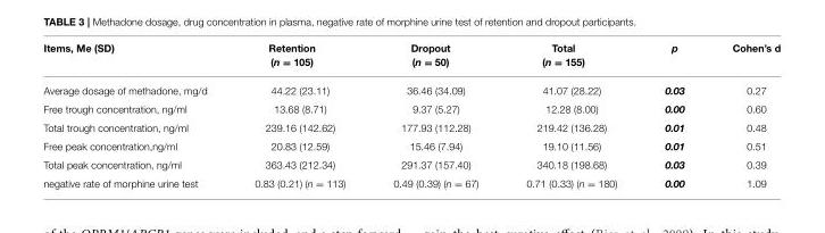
<table><thead><tr><td>Items, Me (SD)</td><td>Retention (n = 105)</td><td>Dropout (n = 50)</td><td>Total (n = 155)</td><td>p</td><td>Cohen’s d</td></tr></thead><tbody><tr><td>Average dosage of methadone, mg/d</td><td>44.22 (23.11)</td><td>36.46 (34.09)</td><td>41.07 (28.22)</td><td>0.03</td><td>0.27</td></tr><tr><td>Free trough concentration, ng/ml</td><td>13.68 (8.71)</td><td>9.37 (5.27)</td><td>12.28 (8.00)</td><td>0.00</td><td>0.60</td></tr><tr><td>Total trough concentration, ng/ml</td><td>239.16 (142.62)</td><td>177.93 (112.28)</td><td>219.42 (136.28)</td><td>0.01</td><td>0.48</td></tr><tr><td>Free peak concentration,ng/ml</td><td>20.83 (12.59)</td><td>15.46 (7.94)</td><td>19.10 (11.56)</td><td>0.01</td><td>0.51</td></tr><tr><td>Total peak concentration, ng/ml</td><td>363.43 (212.34)</td><td>291.37 (157.40)</td><td>340.18 (198.68)</td><td>0.03</td><td>0.39</td></tr><tr><td>negative rate of morphine urine test</td><td>0.83 (0.21) (n = 113)</td><td>0.49 (0.39) (n = 67)</td><td>0.71 (0.33) (n = 180)</td><td>0.00</td><td>1.09</td></tr></tbody></table>